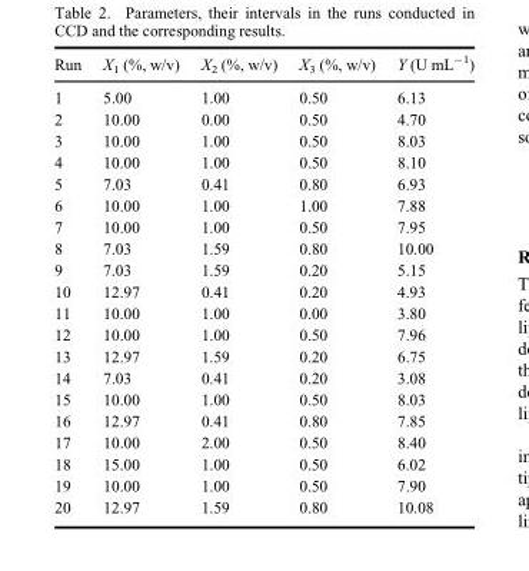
<table><thead><tr><td>Run</td><td>X<sub>1</sub> (%, w/v)</td><td>X<sub>2</sub> (%, w/v)</td><td>X<sub>3</sub> (%, w/v)</td><td>Y (U mL<sup>−1</sup>)</td></tr></thead><tbody><tr><td>1</td><td>5.00</td><td>1.00</td><td>0.50</td><td>6.13</td></tr><tr><td>2</td><td>10.00</td><td>0.00</td><td>0.50</td><td>4.70</td></tr><tr><td>3</td><td>10.00</td><td>1.00</td><td>0.50</td><td>8.03</td></tr><tr><td>4</td><td>10.00</td><td>1.00</td><td>0.50</td><td>8.10</td></tr><tr><td>5</td><td>7.03</td><td>0.41</td><td>0.80</td><td>6.93</td></tr><tr><td>6</td><td>10.00</td><td>1.00</td><td>1.00</td><td>7.88</td></tr><tr><td>7</td><td>10.00</td><td>1.00</td><td>0.50</td><td>7.95</td></tr><tr><td>8</td><td>7.03</td><td>1.59</td><td>0.80</td><td>10.00</td></tr><tr><td>9</td><td>7.03</td><td>1.59</td><td>0.20</td><td>5.15</td></tr><tr><td>10</td><td>12.97</td><td>0.41</td><td>0.20</td><td>4.93</td></tr><tr><td>11</td><td>10.00</td><td>1.00</td><td>0.00</td><td>3.80</td></tr><tr><td>12</td><td>10.00</td><td>1.00</td><td>0.50</td><td>7.96</td></tr><tr><td>13</td><td>12.97</td><td>1.59</td><td>0.20</td><td>6.75</td></tr><tr><td>14</td><td>7.03</td><td>0.41</td><td>0.20</td><td>3.08</td></tr><tr><td>15</td><td>10.00</td><td>1.00</td><td>0.50</td><td>8.03</td></tr><tr><td>16</td><td>12.97</td><td>0.41</td><td>0.80</td><td>7.85</td></tr><tr><td>17</td><td>10.00</td><td>2.00</td><td>0.50</td><td>8.40</td></tr><tr><td>18</td><td>15.00</td><td>1.00</td><td>0.50</td><td>6.02</td></tr><tr><td>19</td><td>10.00</td><td>1.00</td><td>0.50</td><td>7.90</td></tr><tr><td>20</td><td>12.97</td><td>1.59</td><td>0.80</td><td>10.08</td></tr></tbody></table>